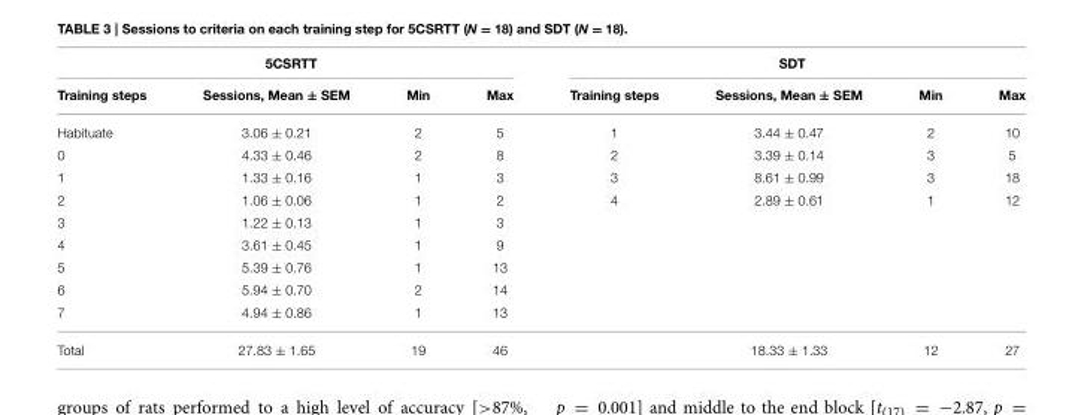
<table><thead><tr><td colspan="4">5CSRTT</td><td colspan="4">SDT</td></tr><tr><td>Training steps</td><td>Sessions, Mean ± SEM</td><td>Min</td><td>Max</td><td>Training steps</td><td>Sessions, Mean ± SEM</td><td>Min</td><td>Max</td></tr></thead><tbody><tr><td>Habituate</td><td>3.06 ± 0.21</td><td>2</td><td>5</td><td>1</td><td>3.44 ± 0.47</td><td>2</td><td>10</td></tr><tr><td>0</td><td>4.33 ± 0.46</td><td>2</td><td>8</td><td>2</td><td>3.39 ± 0.14</td><td>3</td><td>5</td></tr><tr><td>1</td><td>1.33 ± 0.16</td><td>1</td><td>3</td><td>3</td><td>8.61 ± 0.99</td><td>3</td><td>18</td></tr><tr><td>2</td><td>1.06 ± 0.06</td><td>1</td><td>2</td><td>4</td><td>2.89 ± 0.61</td><td>1</td><td>12</td></tr><tr><td>3</td><td>1.22 ± 0.13</td><td>1</td><td>3</td><td></td><td></td><td></td><td></td></tr><tr><td>4</td><td>3.61 ± 0.45</td><td>1</td><td>9</td><td></td><td></td><td></td><td></td></tr><tr><td>5</td><td>5.39 ± 0.76</td><td>1</td><td>13</td><td></td><td></td><td></td><td></td></tr><tr><td>6</td><td>5.94 ± 0.70</td><td>2</td><td>14</td><td></td><td></td><td></td><td></td></tr><tr><td>7</td><td>4.94 ± 0.86</td><td>1</td><td>13</td><td></td><td></td><td></td><td></td></tr><tr><td>Total</td><td>27.83 ± 1.65</td><td>19</td><td>46</td><td></td><td>18.33 ± 1.33</td><td>12</td><td>27</td></tr></tbody></table>